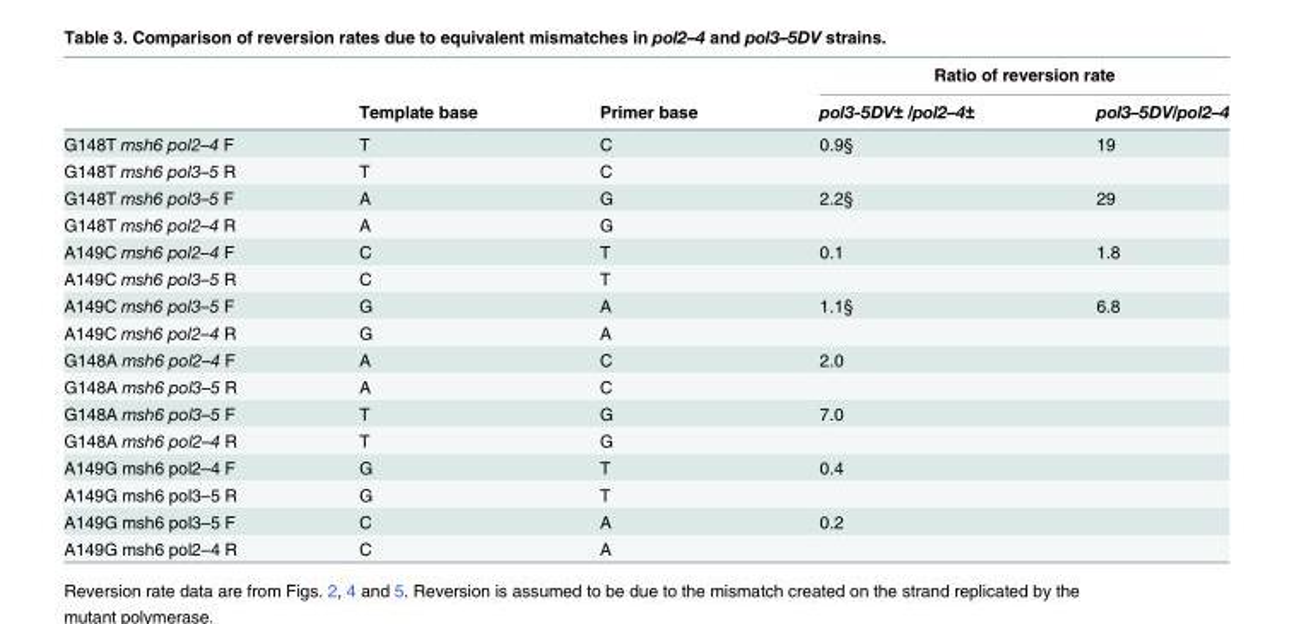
<table><thead><tr><td rowspan="2"></td><td rowspan="2">Template base</td><td rowspan="2">Primer base</td><td colspan="2">Ratio of reversion rate</td></tr><tr><td>pol3-5DV± /pol2–4±</td><td>pol3–5DV/pol2–4</td></tr></thead><tbody><tr><td>G148T msh6 pol2–4 F</td><td>T</td><td>C</td><td>0.9§</td><td>19</td></tr><tr><td>G148T msh6 pol3–5 R</td><td>T</td><td>C</td><td></td><td></td></tr><tr><td>G148T msh6 pol3–5 F</td><td>A</td><td>G</td><td>2.2§</td><td>29</td></tr><tr><td>G148T msh6 pol2–4 R</td><td>A</td><td>G</td><td></td><td></td></tr><tr><td>A149C msh6 pol2–4 F</td><td>C</td><td>T</td><td>0.1</td><td>1.8</td></tr><tr><td>A149C msh6 pol3–5 R</td><td>C</td><td>T</td><td></td><td></td></tr><tr><td>A149C msh6 pol3–5 F</td><td>G</td><td>A</td><td>1.1§</td><td>6.8</td></tr><tr><td>A149C msh6 pol2–4 R</td><td>G</td><td>A</td><td></td><td></td></tr><tr><td>G148A msh6 pol2–4 F</td><td>A</td><td>C</td><td>2.0</td><td></td></tr><tr><td>G148A msh6 pol3–5 R</td><td>A</td><td>C</td><td></td><td></td></tr><tr><td>G148A msh6 pol3–5 F</td><td>T</td><td>G</td><td>7.0</td><td></td></tr><tr><td>G148A msh6 pol2–4 R</td><td>T</td><td>G</td><td></td><td></td></tr><tr><td>A149G msh6 pol2–4 F</td><td>G</td><td>T</td><td>0.4</td><td></td></tr><tr><td>A149G msh6 pol3–5 R</td><td>G</td><td>T</td><td></td><td></td></tr><tr><td>A149G msh6 pol3–5 F</td><td>C</td><td>A</td><td>0.2</td><td></td></tr><tr><td>A149G msh6 pol2–4 R</td><td>C</td><td>A</td><td></td><td></td></tr></tbody></table>